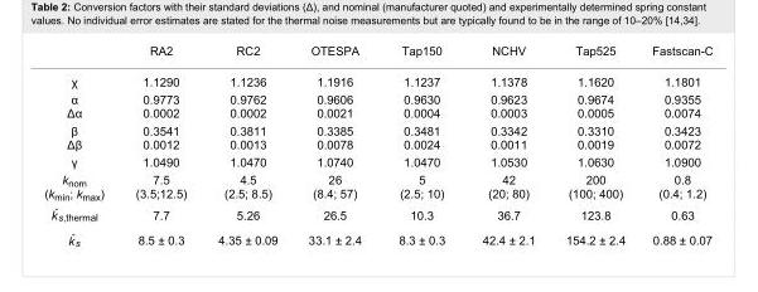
<table><thead><tr><td></td><td>RA2</td><td>RC2</td><td>OTESPA</td><td>Tap150</td><td>NCHV</td><td>Tap525</td><td>Fastscan-C</td></tr></thead><tbody><tr><td>χ</td><td>1.1290</td><td>1.1236</td><td>1.1916</td><td>1.1237</td><td>1.1378</td><td>1.1620</td><td>1.1801</td></tr><tr><td>α Δα</td><td>0.9773 0.0002</td><td>0.9762 0.0002</td><td>0.9606 0.0021</td><td>0.9630 0.0004</td><td>0.9623 0.0003</td><td>0.9674 0.0005</td><td>0.9355 0.0074</td></tr><tr><td>β Δβ</td><td>0.3541 0.0012</td><td>0.3811 0.0013</td><td>0.3385 0.0078</td><td>0.3481 0.0024</td><td>0.3342 0.0011</td><td>0.3310 0.0019</td><td>0.3423 0.0072</td></tr><tr><td>γ</td><td>1.0490</td><td>1.0470</td><td>1.0740</td><td>1.0470</td><td>1.0530</td><td>1.0630</td><td>1.0900</td></tr><tr><td rowspan="3">k<sub>nom</sub> (k<sub>min</sub>; k<sub>max</sub>)</td><td>7.5 (3.5;12.5)</td><td>4.5 (2.5; 8.5)</td><td>26 (8.4; 57)</td><td>5 (2.5; 10)</td><td>42 (20; 80)</td><td>200 (100; 400)</td><td>0.8 (0.4; 1.2)</td></tr><tr><td>7.7</td><td>5.26</td><td>26.5</td><td>10.3</td><td>36.7</td><td>123.8</td><td>0.63</td></tr><tr><td>8.5 ± 0.3</td><td>4.35 ± 0.09</td><td>33.1 ± 2.4</td><td>8.3 ± 0.3</td><td>42.4 ± 2.1</td><td>154.2 ± 2.4</td><td>0.88 ± 0.07</td></tr></tbody></table>